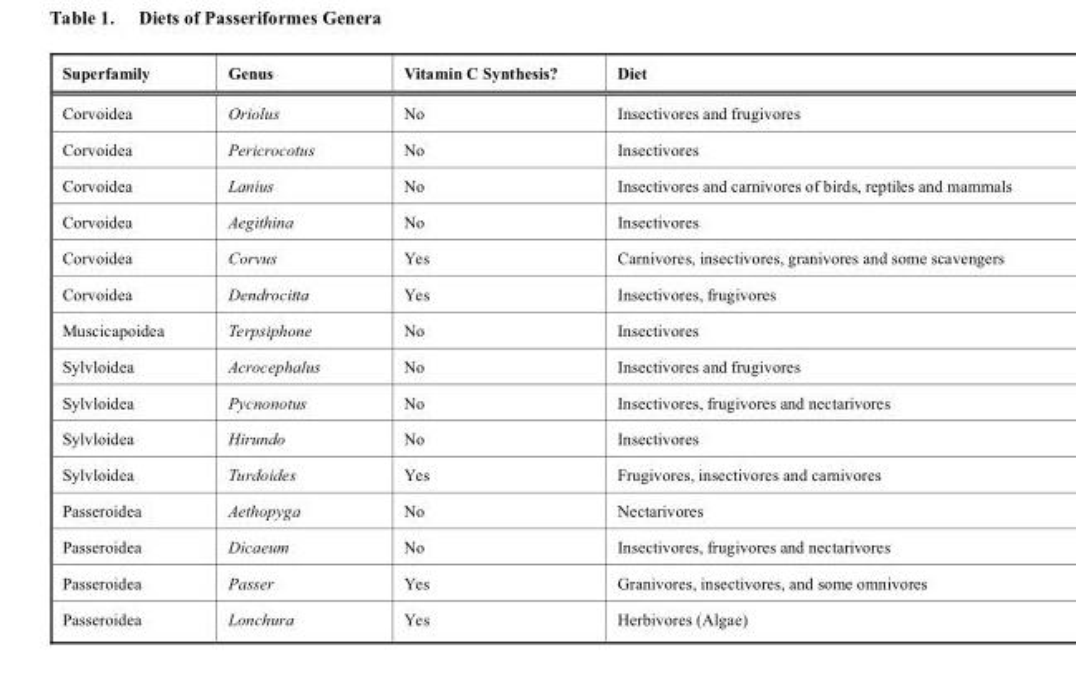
<table><thead><tr><td>Superfamily</td><td>Genus</td><td>Vitamin C Synthesis?</td><td>Diet</td></tr></thead><tbody><tr><td>Corvoidea</td><td>Oriolus</td><td>No</td><td>Insectivores and frugivores</td></tr><tr><td>Corvoidea</td><td>Pericrocotus</td><td>No</td><td>Insectivores</td></tr><tr><td>Corvoidea</td><td>Lanius</td><td>No</td><td>Insectivores and carnivores of birds, reptiles and mammals</td></tr><tr><td>Corvoidea</td><td>Aegithina</td><td>No</td><td>Insectivores</td></tr><tr><td>Corvoidea</td><td>Corvus</td><td>Yes</td><td>Carnivores, insectivores, granivores and some scavengers</td></tr><tr><td>Corvoidea</td><td>Dendrocitta</td><td>Yes</td><td>Insectivores, frugivores</td></tr><tr><td>Muscicapoidea</td><td>Terpsiphone</td><td>No</td><td>Insectivores</td></tr><tr><td>Sylvloidea</td><td>Acrocephalus</td><td>No</td><td>Insectivores and frugivores</td></tr><tr><td>Sylvloidea</td><td>Pycnonotus</td><td>No</td><td>Insectivores, frugivores and nectarivores</td></tr><tr><td>Sylvloidea</td><td>Hirundo</td><td>No</td><td>Insectivores</td></tr><tr><td>Sylvloidea</td><td>Turdoides</td><td>Yes</td><td>Frugivores, insectivores and carnivores</td></tr><tr><td>Passeroidea</td><td>Aethopyga</td><td>No</td><td>Nectarivores</td></tr><tr><td>Passeroidea</td><td>Dicaeum</td><td>No</td><td>Insectivores, frugivores and nectarivores</td></tr><tr><td>Passeroidea</td><td>Passer</td><td>Yes</td><td>Granivores, insectivores, and some omnivores</td></tr><tr><td>Passeroidea</td><td>Lonchura</td><td>Yes</td><td>Herbivores (Algae)</td></tr></tbody></table>